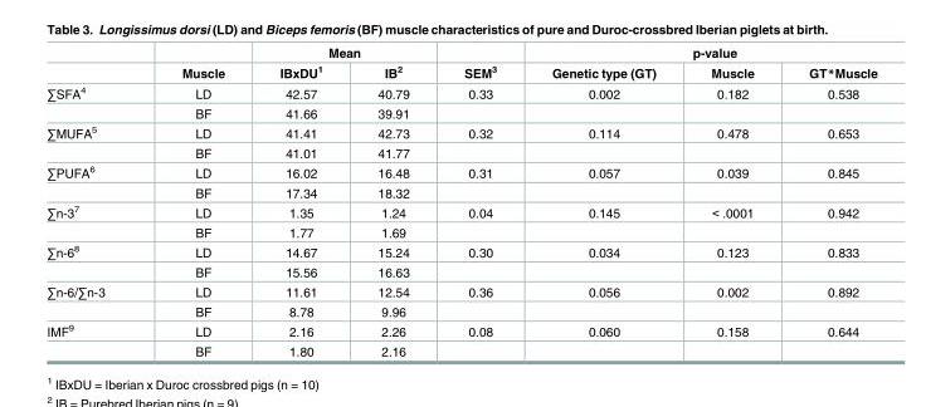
<table><thead><tr><td rowspan="2"></td><td rowspan="2">Muscle</td><td colspan="2">Mean</td><td rowspan="2">SEM<sup>3</sup></td><td colspan="3">p-value</td></tr><tr><td>IBxDU<sup>1</sup></td><td>IB<sup>2</sup></td><td>Genetic type (GT)</td><td>Muscle</td><td>GT*Muscle</td></tr></thead><tbody><tr><td rowspan="2">∑SFA<sup>4</sup></td><td>LD</td><td>42.57</td><td>40.79</td><td>0.33</td><td>0.002</td><td>0.182</td><td>0.538</td></tr><tr><td>BF</td><td>41.66</td><td>39.91</td><td></td><td></td><td></td><td></td></tr><tr><td rowspan="2">∑MUFA<sup>5</sup></td><td>LD</td><td>41.41</td><td>42.73</td><td>0.32</td><td>0.114</td><td>0.478</td><td>0.653</td></tr><tr><td>BF</td><td>41.01</td><td>41.77</td><td></td><td></td><td></td><td></td></tr><tr><td rowspan="2">∑PUFA<sup>6</sup></td><td>LD</td><td>16.02</td><td>16.48</td><td>0.31</td><td>0.057</td><td>0.039</td><td>0.845</td></tr><tr><td>BF</td><td>17.34</td><td>18.32</td><td></td><td></td><td></td><td></td></tr><tr><td rowspan="2">∑n-3<sup>7</sup></td><td>LD</td><td>1.35</td><td>1.24</td><td>0.04</td><td>0.145</td><td>&lt; .0001</td><td>0.942</td></tr><tr><td>BF</td><td>1.77</td><td>1.69</td><td></td><td></td><td></td><td></td></tr><tr><td rowspan="2">∑n-6<sup>8</sup></td><td>LD</td><td>14.67</td><td>15.24</td><td>0.30</td><td>0.034</td><td>0.123</td><td>0.833</td></tr><tr><td>BF</td><td>15.56</td><td>16.63</td><td></td><td></td><td></td><td></td></tr><tr><td rowspan="2">∑n-6/∑n-3</td><td>LD</td><td>11.61</td><td>12.54</td><td>0.36</td><td>0.056</td><td>0.002</td><td>0.892</td></tr><tr><td>BF</td><td>8.78</td><td>9.96</td><td></td><td></td><td></td><td></td></tr><tr><td rowspan="2">IMF<sup>9</sup></td><td>LD</td><td>2.16</td><td>2.26</td><td>0.08</td><td>0.060</td><td>0.158</td><td>0.644</td></tr><tr><td>BF</td><td>1.80</td><td>2.16</td><td></td><td></td><td></td><td></td></tr></tbody></table>